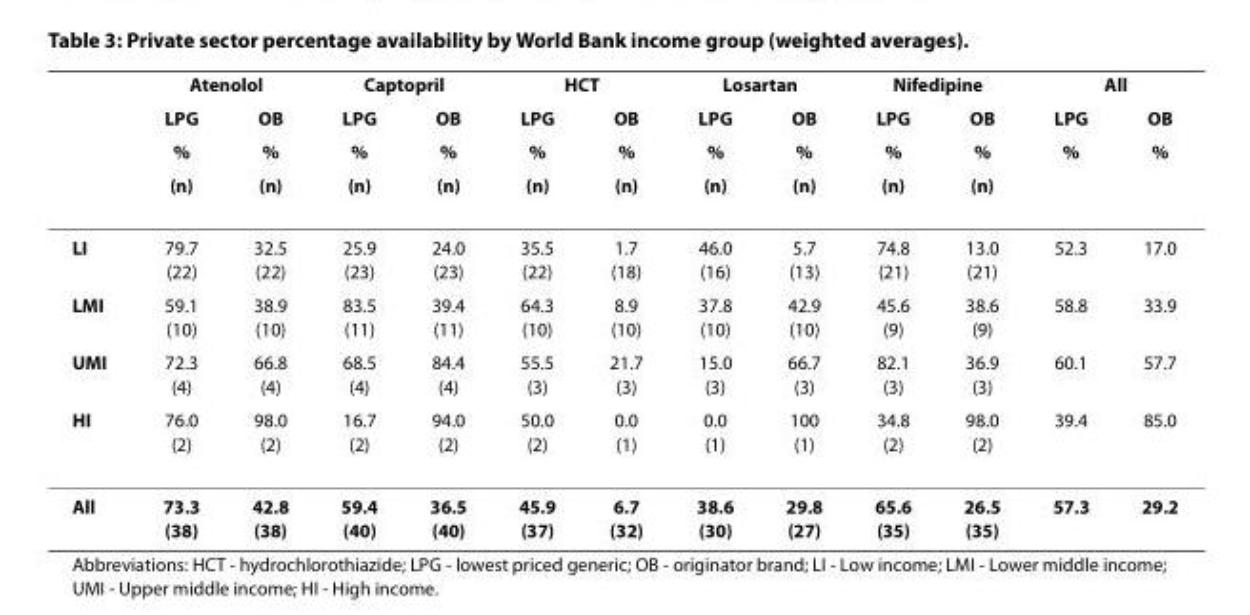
<table><thead><tr><td rowspan="4"></td><td colspan="2">Atenolol</td><td colspan="2">Captopril</td><td colspan="2">HCT</td><td colspan="2">Losartan</td><td colspan="2">Nifedipine</td><td colspan="2">All</td></tr><tr><td rowspan="3">LPG % (n)</td><td rowspan="3">OB % (n)</td><td rowspan="3">LPG % (n)</td><td rowspan="3">OB % (n)</td><td rowspan="3">LPG % (n)</td><td rowspan="3">OB % (n)</td><td rowspan="3">LPG % (n)</td><td rowspan="3">OB % (n)</td><td rowspan="3">LPG % (n)</td><td rowspan="3">OB % (n)</td><td rowspan="3">LPG %</td><td rowspan="3">OB %</td></tr><tr></tr><tr></tr></thead><tbody><tr><td>LI</td><td>79.7 (22)</td><td>32.5 (22)</td><td>25.9 (23)</td><td>24.0 (23)</td><td>35.5 (22)</td><td>1.7 (18)</td><td>46.0 (16)</td><td>5.7 (13)</td><td>74.8 (21)</td><td>13.0 (21)</td><td>52.3</td><td>17.0</td></tr><tr><td>LMI</td><td>59.1 (10)</td><td>38.9 (10)</td><td>83.5 (11)</td><td>39.4 (11)</td><td>64.3 (10)</td><td>8.9 (10)</td><td>37.8 (10)</td><td>42.9 (10)</td><td>45.6 (9)</td><td>38.6 (9)</td><td>58.8</td><td>33.9</td></tr><tr><td>UMI</td><td>72.3 (4)</td><td>66.8 (4)</td><td>68.5 (4)</td><td>84.4 (4)</td><td>55.5 (3)</td><td>21.7 (3)</td><td>15.0 (3)</td><td>66.7 (3)</td><td>82.1 (3)</td><td>36.9 (3)</td><td>60.1</td><td>57.7</td></tr><tr><td>HI</td><td>76.0 (2)</td><td>98.0 (2)</td><td>16.7 (2)</td><td>94.0 (2)</td><td>50.0 (2)</td><td>0.0 (1)</td><td>0.0 (1)</td><td>100 (1)</td><td>34.8 (2)</td><td>98.0 (2)</td><td>39.4</td><td>85.0</td></tr><tr><td>All</td><td>73.3 (38)</td><td>42.8 (38)</td><td>59.4 (40)</td><td>36.5 (40)</td><td>45.9 (37)</td><td>6.7 (32)</td><td>38.6 (30)</td><td>29.8 (27)</td><td>65.6 (35)</td><td>26.5 (35)</td><td>57.3</td><td>29.2</td></tr></tbody></table>